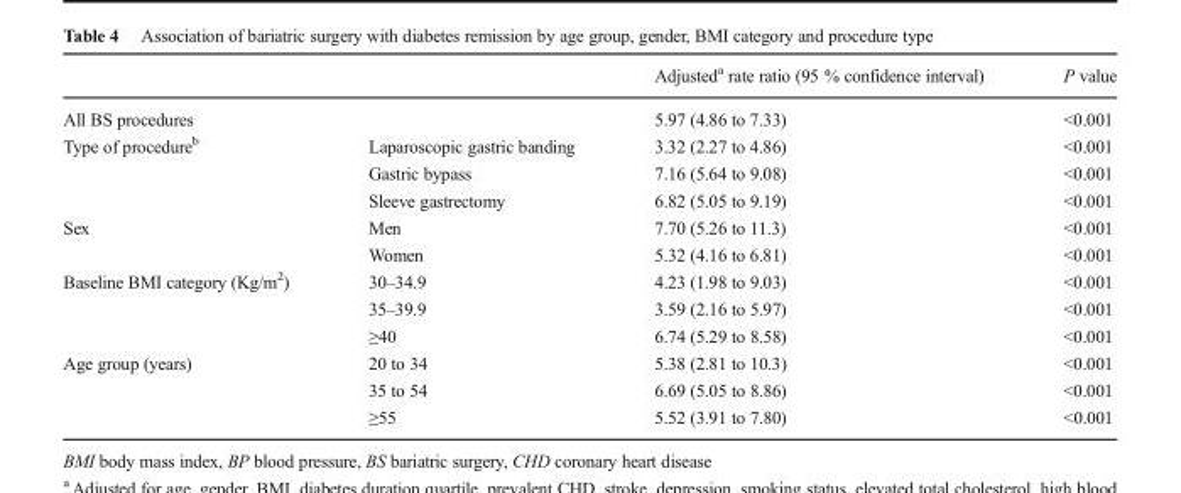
<table><thead><tr><td></td><td></td><td>Adjusted<sup>a</sup> rate ratio (95 % confidence interval)</td><td>P value</td></tr></thead><tbody><tr><td>All BS procedures</td><td></td><td>5.97 (4.86 to 7.33)</td><td>&lt;0.001</td></tr><tr><td rowspan="3">Type of procedure<sup>b</sup></td><td>Laparoscopic gastric banding</td><td>3.32 (2.27 to 4.86)</td><td>&lt;0.001</td></tr><tr><td>Gastric bypass</td><td>7.16 (5.64 to 9.08)</td><td>&lt;0.001</td></tr><tr><td>Sleeve gastrectomy</td><td>6.82 (5.05 to 9.19)</td><td>&lt;0.001</td></tr><tr><td rowspan="2">Sex</td><td>Men</td><td>7.70 (5.26 to 11.3)</td><td>&lt;0.001</td></tr><tr><td>Women</td><td>5.32 (4.16 to 6.81)</td><td>&lt;0.001</td></tr><tr><td rowspan="3">Baseline BMI category (Kg/m<sup>2</sup>)</td><td>30–34.9</td><td>4.23 (1.98 to 9.03)</td><td>&lt;0.001</td></tr><tr><td>35–39.9</td><td>3.59 (2.16 to 5.97)</td><td>&lt;0.001</td></tr><tr><td>≥40</td><td>6.74 (5.29 to 8.58)</td><td>&lt;0.001</td></tr><tr><td rowspan="3">Age group (years)</td><td>20 to 34</td><td>5.38 (2.81 to 10.3)</td><td>&lt;0.001</td></tr><tr><td>35 to 54</td><td>6.69 (5.05 to 8.86)</td><td>&lt;0.001</td></tr><tr><td>≥55</td><td>5.52 (3.91 to 7.80)</td><td>&lt;0.001</td></tr></tbody></table>